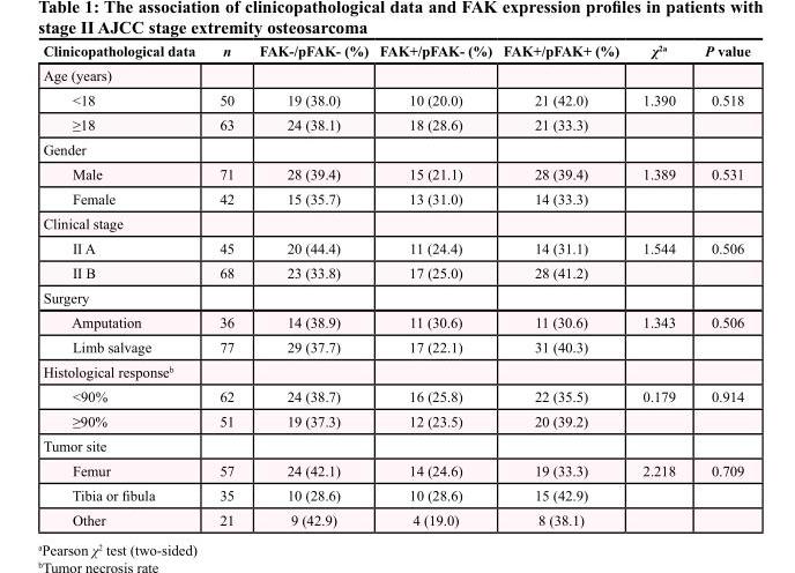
<table><thead><tr><td>Clinicopathological data</td><td>n</td><td>FAK-/pFAK- (%)</td><td>FAK+/pFAK- (%)</td><td>FAK+/pFAK+ (%)</td><td>χ<sup>2a</sup></td><td>P value</td></tr></thead><tbody><tr><td colspan="7">Age (years)</td></tr><tr><td>&lt;18</td><td>50</td><td>19 (38.0)</td><td>10 (20.0)</td><td>21 (42.0)</td><td>1.390</td><td>0.518</td></tr><tr><td>≥18</td><td>63</td><td>24 (38.1)</td><td>18 (28.6)</td><td>21 (33.3)</td><td></td><td></td></tr><tr><td colspan="7">Gender</td></tr><tr><td>Male</td><td>71</td><td>28 (39.4)</td><td>15 (21.1)</td><td>28 (39.4)</td><td>1.389</td><td>0.531</td></tr><tr><td>Female</td><td>42</td><td>15 (35.7)</td><td>13 (31.0)</td><td>14 (33.3)</td><td></td><td></td></tr><tr><td colspan="7">Clinical stage</td></tr><tr><td>II A</td><td>45</td><td>20 (44.4)</td><td>11 (24.4)</td><td>14 (31.1)</td><td>1.544</td><td>0.506</td></tr><tr><td>II B</td><td>68</td><td>23 (33.8)</td><td>17 (25.0)</td><td>28 (41.2)</td><td></td><td></td></tr><tr><td colspan="7">Surgery</td></tr><tr><td>Amputation</td><td>36</td><td>14 (38.9)</td><td>11 (30.6)</td><td>11 (30.6)</td><td>1.343</td><td>0.506</td></tr><tr><td>Limb salvage</td><td>77</td><td>29 (37.7)</td><td>17 (22.1)</td><td>31 (40.3)</td><td></td><td></td></tr><tr><td colspan="7">Histological response<sup>b</sup></td></tr><tr><td>&lt;90%</td><td>62</td><td>24 (38.7)</td><td>16 (25.8)</td><td>22 (35.5)</td><td>0.179</td><td>0.914</td></tr><tr><td>≥90%</td><td>51</td><td>19 (37.3)</td><td>12 (23.5)</td><td>20 (39.2)</td><td></td><td></td></tr><tr><td colspan="7">Tumor site</td></tr><tr><td>Femur</td><td>57</td><td>24 (42.1)</td><td>14 (24.6)</td><td>19 (33.3)</td><td>2.218</td><td>0.709</td></tr><tr><td>Tibia or fibula</td><td>35</td><td>10 (28.6)</td><td>10 (28.6)</td><td>15 (42.9)</td><td></td><td></td></tr><tr><td>Other</td><td>21</td><td>9 (42.9)</td><td>4 (19.0)</td><td>8 (38.1)</td><td></td><td></td></tr></tbody></table>